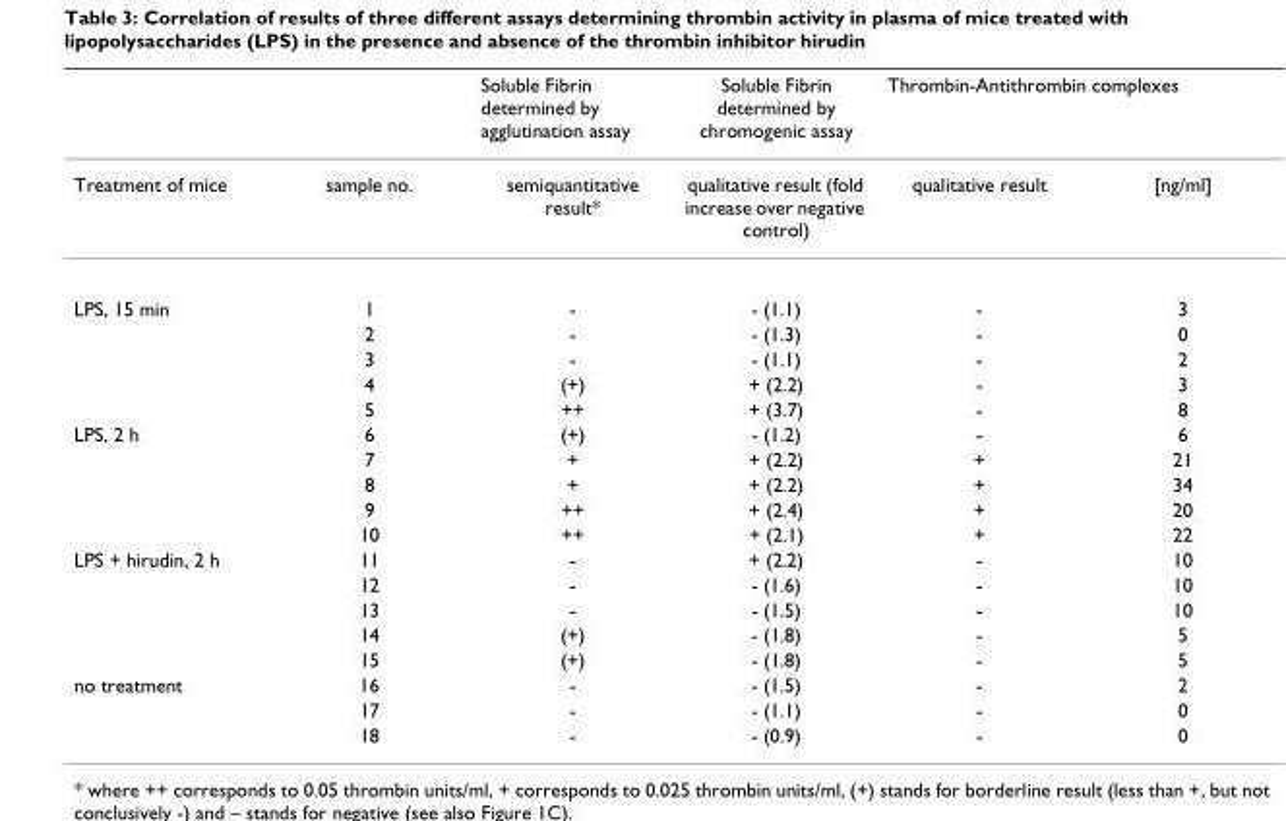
<table><thead><tr><td rowspan="2">Treatment of mice</td><td rowspan="2">sample no.</td><td rowspan="2">Soluble Fibrin determined by agglutination assay semiquantitative result*</td><td rowspan="2">Soluble Fibrin determined by chromogenic assay qualitative result (fold increase over negative control)</td><td colspan="2">Thrombin-Antithrombin complexes</td></tr><tr><td>qualitative result</td><td>[ng/ml]</td></tr></thead><tbody><tr><td rowspan="5">LPS, 15 min</td><td>1</td><td>-</td><td>- (1.1)</td><td>-</td><td>3</td></tr><tr><td>2</td><td>-</td><td>- (1.3)</td><td>-</td><td>0</td></tr><tr><td>3</td><td>-</td><td>- (1.1)</td><td>-</td><td>2</td></tr><tr><td>4</td><td>(+)</td><td>+ (2.2)</td><td>-</td><td>3</td></tr><tr><td>5</td><td>++</td><td>+ (3.7)</td><td>-</td><td>8</td></tr><tr><td rowspan="5">LPS, 2 h</td><td>6</td><td>(+)</td><td>- (1.2)</td><td>-</td><td>6</td></tr><tr><td>7</td><td>+</td><td>+ (2.2)</td><td>+</td><td>21</td></tr><tr><td>8</td><td>+</td><td>+ (2.2)</td><td>+</td><td>34</td></tr><tr><td>9</td><td>++</td><td>+ (2.4)</td><td>+</td><td>20</td></tr><tr><td>10</td><td>++</td><td>+ (2.1)</td><td>+</td><td>22</td></tr><tr><td rowspan="5">LPS + hirudin, 2 h</td><td>11</td><td>-</td><td>+ (2.2)</td><td>-</td><td>10</td></tr><tr><td>12</td><td>-</td><td>- (1.6)</td><td>-</td><td>10</td></tr><tr><td>13</td><td>-</td><td>- (1.5)</td><td>-</td><td>10</td></tr><tr><td>14</td><td>(+)</td><td>- (1.8)</td><td>-</td><td>5</td></tr><tr><td>15</td><td>(+)</td><td>- (1.8)</td><td>-</td><td>5</td></tr><tr><td rowspan="3">no treatment</td><td>16</td><td>-</td><td>- (1.5)</td><td>-</td><td>2</td></tr><tr><td>17</td><td>-</td><td>- (1.1)</td><td>-</td><td>0</td></tr><tr><td>18</td><td>-</td><td>- (0.9)</td><td>-</td><td>0</td></tr></tbody></table>